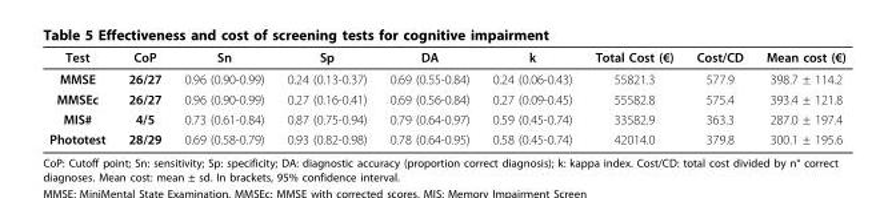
<table><thead><tr><td>Test</td><td>CoP</td><td>Sn</td><td>Sp</td><td>DA</td><td>k</td><td>Total Cost (€)</td><td>Cost/CD</td><td>Mean cost (€)</td></tr></thead><tbody><tr><td>MMSE</td><td>26/27</td><td>0.96 (0.90-0.99)</td><td>0.24 (0.13-0.37)</td><td>0.69 (0.55-0.84)</td><td>0.24 (0.06-0.43)</td><td>55821.3</td><td>577.9</td><td>398.7 ± 114.2</td></tr><tr><td>MMSEc</td><td>26/27</td><td>0.96 (0.90-0.99)</td><td>0.27 (0.16-0.41)</td><td>0.69 (0.56-0.84)</td><td>0.27 (0.09-0.45)</td><td>55582.8</td><td>575.4</td><td>393.4 ± 121.8</td></tr><tr><td>MIS#</td><td>4/5</td><td>0.73 (0.61-0.84)</td><td>0.87 (0.75-0.94)</td><td>0.79 (0.64-0.97)</td><td>0.59 (0.45-0.74)</td><td>33582.9</td><td>363.3</td><td>287.0 ± 197.4</td></tr><tr><td>Phototest</td><td>28/29</td><td>0.69 (0.58-0.79)</td><td>0.93 (0.82-0.98)</td><td>0.78 (0.64-0.95)</td><td>0.58 (0.45-0.74)</td><td>42014.0</td><td>379.8</td><td>300.1 ± 195.6</td></tr></tbody></table>